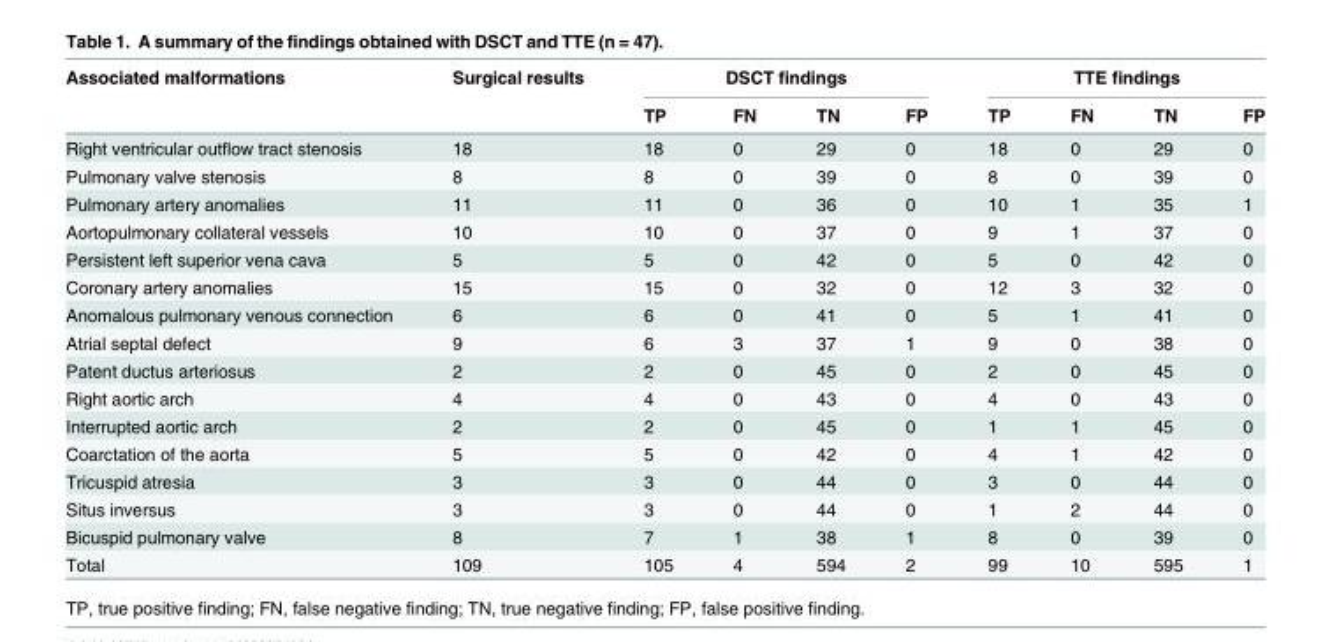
<table><thead><tr><td rowspan="2">Associated malformations</td><td rowspan="2">Surgical results</td><td colspan="4">DSCT findings</td><td colspan="4">TTE findings</td></tr><tr><td>TP</td><td>FN</td><td>TN</td><td>FP</td><td>TP</td><td>FN</td><td>TN</td><td>FP</td></tr></thead><tbody><tr><td>Right ventricular outflow tract stenosis</td><td>18</td><td>18</td><td>0</td><td>29</td><td>0</td><td>18</td><td>0</td><td>29</td><td>0</td></tr><tr><td>Pulmonary valve stenosis</td><td>8</td><td>8</td><td>0</td><td>39</td><td>0</td><td>8</td><td>0</td><td>39</td><td>0</td></tr><tr><td>Pulmonary artery anomalies</td><td>11</td><td>11</td><td>0</td><td>36</td><td>0</td><td>10</td><td>1</td><td>35</td><td>1</td></tr><tr><td>Aortopulmonary collateral vessels</td><td>10</td><td>10</td><td>0</td><td>37</td><td>0</td><td>9</td><td>1</td><td>37</td><td>0</td></tr><tr><td>Persistent left superior vena cava</td><td>5</td><td>5</td><td>0</td><td>42</td><td>0</td><td>5</td><td>0</td><td>42</td><td>0</td></tr><tr><td>Coronary artery anomalies</td><td>15</td><td>15</td><td>0</td><td>32</td><td>0</td><td>12</td><td>3</td><td>32</td><td>0</td></tr><tr><td>Anomalous pulmonary venous connection</td><td>6</td><td>6</td><td>0</td><td>41</td><td>0</td><td>5</td><td>1</td><td>41</td><td>0</td></tr><tr><td>Atrial septal defect</td><td>9</td><td>6</td><td>3</td><td>37</td><td>1</td><td>9</td><td>0</td><td>38</td><td>0</td></tr><tr><td>Patent ductus arteriosus</td><td>2</td><td>2</td><td>0</td><td>45</td><td>0</td><td>2</td><td>0</td><td>45</td><td>0</td></tr><tr><td>Right aortic arch</td><td>4</td><td>4</td><td>0</td><td>43</td><td>0</td><td>4</td><td>0</td><td>43</td><td>0</td></tr><tr><td>Interrupted aortic arch</td><td>2</td><td>2</td><td>0</td><td>45</td><td>0</td><td>1</td><td>1</td><td>45</td><td>0</td></tr><tr><td>Coarctation of the aorta</td><td>5</td><td>5</td><td>0</td><td>42</td><td>0</td><td>4</td><td>1</td><td>42</td><td>0</td></tr><tr><td>Tricuspid atresia</td><td>3</td><td>3</td><td>0</td><td>44</td><td>0</td><td>3</td><td>0</td><td>44</td><td>0</td></tr><tr><td>Situs inversus</td><td>3</td><td>3</td><td>0</td><td>44</td><td>0</td><td>1</td><td>2</td><td>44</td><td>0</td></tr><tr><td>Bicuspid pulmonary valve</td><td>8</td><td>7</td><td>1</td><td>38</td><td>1</td><td>8</td><td>0</td><td>39</td><td>0</td></tr><tr><td>Total</td><td>109</td><td>105</td><td>4</td><td>594</td><td>2</td><td>99</td><td>10</td><td>595</td><td>1</td></tr></tbody></table>